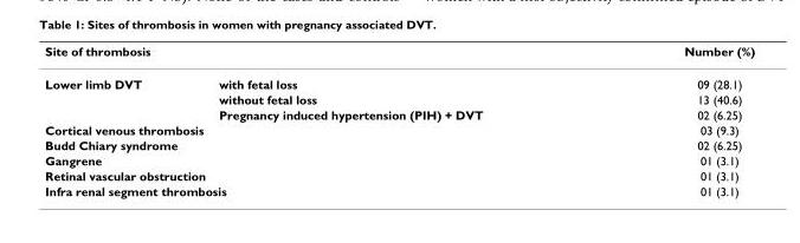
<table><thead><tr><td colspan="2">Site of thrombosis</td><td rowspan="2">Number (%) 09 (28.1)</td></tr><tr><td>Lower limb DVT</td><td>with fetal loss</td></tr></thead><tbody><tr><td></td><td>without fetal loss</td><td>13 (40.6)</td></tr><tr><td></td><td>Pregnancy induced hypertension (PIH) + DVT</td><td>02 (6.25)</td></tr><tr><td colspan="2">Cortical venous thrombosis</td><td>03 (9.3)</td></tr><tr><td colspan="2">Budd Chiary syndrome</td><td>02 (6.25)</td></tr><tr><td colspan="2">Gangrene</td><td>01 (3.1)</td></tr><tr><td colspan="2">Retinal vascular obstruction</td><td>01 (3.1)</td></tr><tr><td colspan="2">Infra renal segment thrombosis</td><td>01 (3.1)</td></tr></tbody></table>